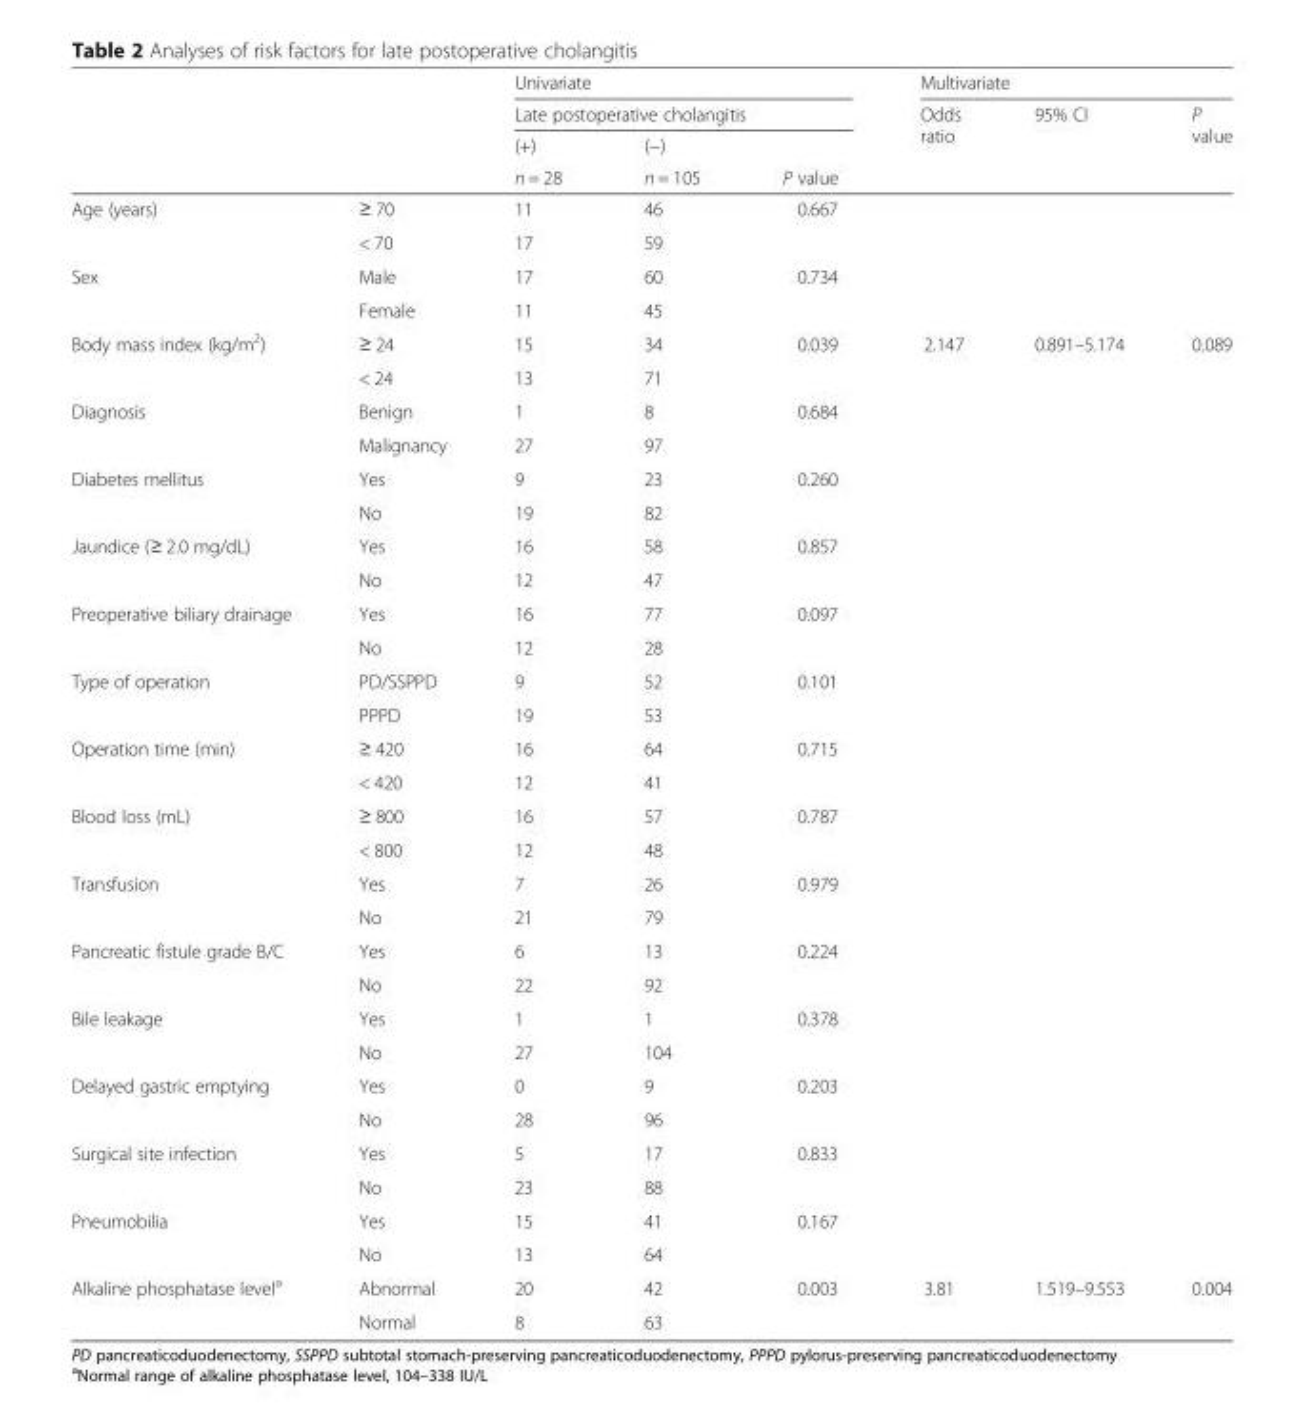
<table><thead><tr><td rowspan="4"></td><td rowspan="4"></td><td rowspan="2" colspan="3">Univariate Late postoperative cholangitis</td><td colspan="3">Multivariate</td></tr><tr><td rowspan="3">Odds ratio</td><td rowspan="3">95% CI</td><td rowspan="3">P value</td></tr><tr><td rowspan="2">(+) n = 28</td><td rowspan="2">(−) n = 105</td><td rowspan="2">P value</td></tr><tr></tr></thead><tbody><tr><td rowspan="2">Age (years)</td><td>≥ 70</td><td>11</td><td>46</td><td>0.667</td><td></td><td></td><td></td></tr><tr><td>&lt; 70</td><td>17</td><td>59</td><td></td><td></td><td></td><td></td></tr><tr><td rowspan="2">Sex</td><td>Male</td><td>17</td><td>60</td><td>0.734</td><td></td><td></td><td></td></tr><tr><td>Female</td><td>11</td><td>45</td><td></td><td></td><td></td><td></td></tr><tr><td rowspan="2">Body mass index (kg/m<sup>2</sup>)</td><td>≥ 24</td><td>15</td><td>34</td><td>0.039</td><td>2.147</td><td>0.891–5.174</td><td>0.089</td></tr><tr><td>&lt; 24</td><td>13</td><td>71</td><td></td><td></td><td></td><td></td></tr><tr><td rowspan="2">Diagnosis</td><td>Benign</td><td>1</td><td>8</td><td>0.684</td><td></td><td></td><td></td></tr><tr><td>Malignancy</td><td>27</td><td>97</td><td></td><td></td><td></td><td></td></tr><tr><td rowspan="2">Diabetes mellitus</td><td>Yes</td><td>9</td><td>23</td><td>0.260</td><td></td><td></td><td></td></tr><tr><td>No</td><td>19</td><td>82</td><td></td><td></td><td></td><td></td></tr><tr><td rowspan="2">Jaundice (≥ 2.0 mg/dL)</td><td>Yes</td><td>16</td><td>58</td><td>0.857</td><td></td><td></td><td></td></tr><tr><td>No</td><td>12</td><td>47</td><td></td><td></td><td></td><td></td></tr><tr><td rowspan="2">Preoperative biliary drainage</td><td>Yes</td><td>16</td><td>77</td><td>0.097</td><td></td><td></td><td></td></tr><tr><td>No</td><td>12</td><td>28</td><td></td><td></td><td></td><td></td></tr><tr><td rowspan="2">Type of operation</td><td>PD/SSPPD</td><td>9</td><td>52</td><td>0.101</td><td></td><td></td><td></td></tr><tr><td>PPPD</td><td>19</td><td>53</td><td></td><td></td><td></td><td></td></tr><tr><td rowspan="2">Operation time (min)</td><td>≥ 420</td><td>16</td><td>64</td><td>0.715</td><td></td><td></td><td></td></tr><tr><td>&lt; 420</td><td>12</td><td>41</td><td></td><td></td><td></td><td></td></tr><tr><td rowspan="2">Blood loss (mL)</td><td>≥ 800</td><td>16</td><td>57</td><td>0.787</td><td></td><td></td><td></td></tr><tr><td>&lt; 800</td><td>12</td><td>48</td><td></td><td></td><td></td><td></td></tr><tr><td rowspan="2">Transfusion</td><td>Yes</td><td>7</td><td>26</td><td>0.979</td><td></td><td></td><td></td></tr><tr><td>No</td><td>21</td><td>79</td><td></td><td></td><td></td><td></td></tr><tr><td rowspan="2">Pancreatic fistule grade B/C</td><td>Yes</td><td>6</td><td>13</td><td>0.224</td><td></td><td></td><td></td></tr><tr><td>No</td><td>22</td><td>92</td><td></td><td></td><td></td><td></td></tr><tr><td rowspan="2">Bile leakage</td><td>Yes</td><td>1</td><td>1</td><td>0.378</td><td></td><td></td><td></td></tr><tr><td>No</td><td>27</td><td>104</td><td></td><td></td><td></td><td></td></tr><tr><td rowspan="2">Delayed gastric emptying</td><td>Yes</td><td>0</td><td>9</td><td>0.203</td><td></td><td></td><td></td></tr><tr><td>No</td><td>28</td><td>96</td><td></td><td></td><td></td><td></td></tr><tr><td rowspan="2">Surgical site infection</td><td>Yes</td><td>5</td><td>17</td><td>0.833</td><td></td><td></td><td></td></tr><tr><td>No</td><td>23</td><td>88</td><td></td><td></td><td></td><td></td></tr><tr><td rowspan="2">Pneumobilia</td><td>Yes</td><td>15</td><td>41</td><td>0.167</td><td></td><td></td><td></td></tr><tr><td>No</td><td>13</td><td>64</td><td></td><td></td><td></td><td></td></tr><tr><td rowspan="2">Alkaline phosphatase level<sup>a</sup></td><td>Abnormal</td><td>20</td><td>42</td><td>0.003</td><td>3.81</td><td>1.519–9.553</td><td>0.004</td></tr><tr><td>Normal</td><td>8</td><td>63</td><td></td><td></td><td></td><td></td></tr></tbody></table>